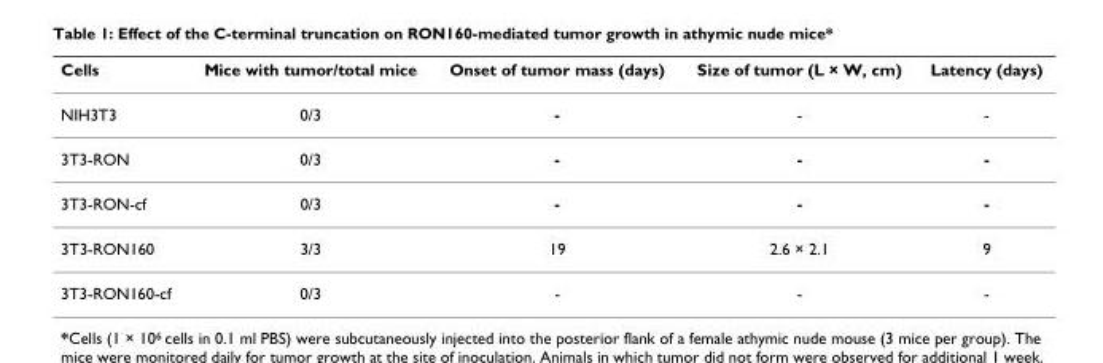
<table><thead><tr><td>Cells</td><td>Mice with tumor/total mice</td><td>Onset of tumor mass (days)</td><td>Size of tumor (L × W, cm)</td><td>Latency (days)</td></tr></thead><tbody><tr><td>NIH3T3</td><td>0/3</td><td>-</td><td>-</td><td>-</td></tr><tr><td>3T3-RON</td><td>0/3</td><td>-</td><td>-</td><td>-</td></tr><tr><td>3T3-RON-cf</td><td>0/3</td><td>-</td><td>-</td><td>-</td></tr><tr><td>3T3-RON160</td><td>3/3</td><td>19</td><td>2.6 × 2.1</td><td>9</td></tr><tr><td>3T3-RON160-cf</td><td>0/3</td><td>-</td><td>-</td><td>-</td></tr></tbody></table>